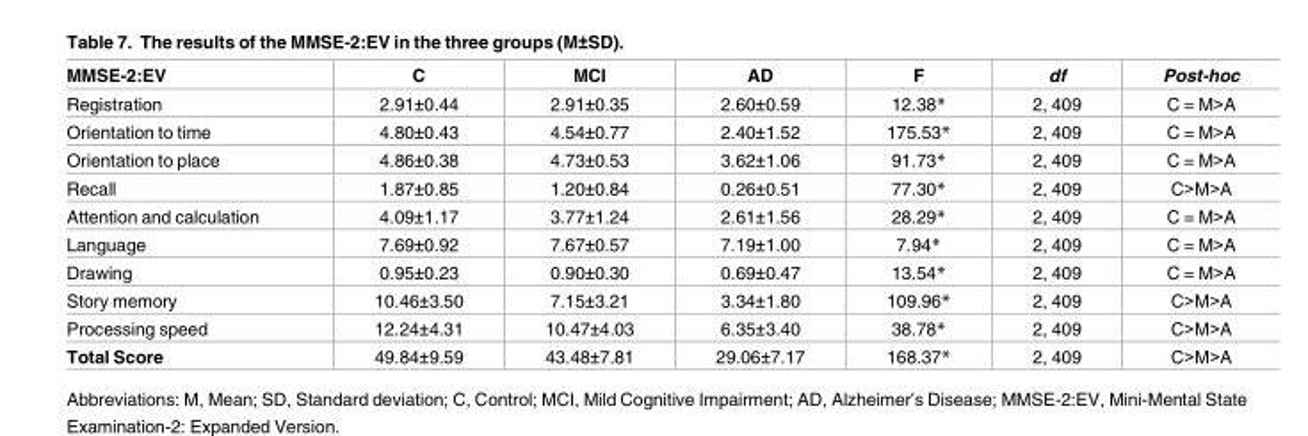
<table><thead><tr><td>MMSE-2:EV</td><td>C</td><td>MCI</td><td>AD</td><td>F</td><td>df</td><td>Post-hoc</td></tr></thead><tbody><tr><td>Registration</td><td>2.91±0.44</td><td>2.91±0.35</td><td>2.60±0.59</td><td>12.38*</td><td>2, 409</td><td>C = M&gt;A</td></tr><tr><td>Orientation to time</td><td>4.80±0.43</td><td>4.54±0.77</td><td>2.40±1.52</td><td>175.53*</td><td>2, 409</td><td>C = M&gt;A</td></tr><tr><td>Orientation to place</td><td>4.86±0.38</td><td>4.73±0.53</td><td>3.62±1.06</td><td>91.73*</td><td>2, 409</td><td>C = M&gt;A</td></tr><tr><td>Recall</td><td>1.87±0.85</td><td>1.20±0.84</td><td>0.26±0.51</td><td>77.30*</td><td>2, 409</td><td>C&gt;M&gt;A</td></tr><tr><td>Attention and calculation</td><td>4.09±1.17</td><td>3.77±1.24</td><td>2.61±1.56</td><td>28.29*</td><td>2, 409</td><td>C = M&gt;A</td></tr><tr><td>Language</td><td>7.69±0.92</td><td>7.67±0.57</td><td>7.19±1.00</td><td>7.94*</td><td>2, 409</td><td>C = M&gt;A</td></tr><tr><td>Drawing</td><td>0.95±0.23</td><td>0.90±0.30</td><td>0.69±0.47</td><td>13.54*</td><td>2, 409</td><td>C = M&gt;A</td></tr><tr><td>Story memory</td><td>10.46±3.50</td><td>7.15±3.21</td><td>3.34±1.80</td><td>109.96*</td><td>2, 409</td><td>C&gt;M&gt;A</td></tr><tr><td>Processing speed</td><td>12.24±4.31</td><td>10.47±4.03</td><td>6.35±3.40</td><td>38.78*</td><td>2, 409</td><td>C&gt;M&gt;A</td></tr><tr><td>Total Score</td><td>49.84±9.59</td><td>43.48±7.81</td><td>29.06±7.17</td><td>168.37*</td><td>2, 409</td><td>C&gt;M&gt;A</td></tr></tbody></table>